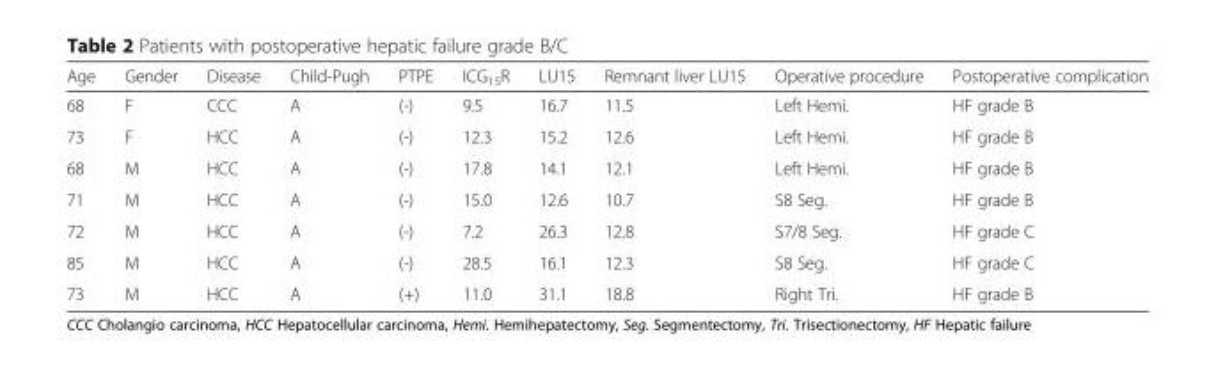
<table><thead><tr><td>Age</td><td>Gender</td><td>Disease</td><td>Child-Pugh</td><td>PTPE</td><td>ICG<sub>15</sub>R</td><td>LU15</td><td>Remnant liver LU15</td><td>Operative procedure</td><td>Postoperative complication</td></tr></thead><tbody><tr><td>68</td><td>F</td><td>CCC</td><td>A</td><td>(-)</td><td>9.5</td><td>16.7</td><td>11.5</td><td>Left Hemi.</td><td>HF grade B</td></tr><tr><td>73</td><td>F</td><td>HCC</td><td>A</td><td>(-)</td><td>12.3</td><td>15.2</td><td>12.6</td><td>Left Hemi.</td><td>HF grade B</td></tr><tr><td>68</td><td>M</td><td>HCC</td><td>A</td><td>(-)</td><td>17.8</td><td>14.1</td><td>12.1</td><td>Left Hemi.</td><td>HF grade B</td></tr><tr><td>71</td><td>M</td><td>HCC</td><td>A</td><td>(-)</td><td>15.0</td><td>12.6</td><td>10.7</td><td>S8 Seg.</td><td>HF grade B</td></tr><tr><td>72</td><td>M</td><td>HCC</td><td>A</td><td>(-)</td><td>7.2</td><td>26.3</td><td>12.8</td><td>S7/8 Seg.</td><td>HF grade C</td></tr><tr><td>85</td><td>M</td><td>HCC</td><td>A</td><td>(-)</td><td>28.5</td><td>16.1</td><td>12.3</td><td>S8 Seg.</td><td>HF grade C</td></tr><tr><td>73</td><td>M</td><td>HCC</td><td>A</td><td>(+)</td><td>11.0</td><td>31.1</td><td>18.8</td><td>Right Tri.</td><td>HF grade B</td></tr></tbody></table>